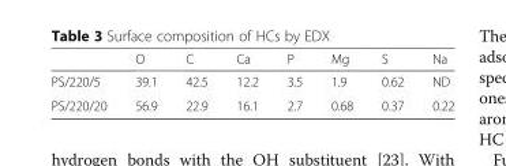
<table><thead><tr><td></td><td>O</td><td>C</td><td>Ca</td><td>P</td><td>Mg</td><td>S</td><td>Na</td></tr></thead><tbody><tr><td>PS/220/5</td><td>39.1</td><td>42.5</td><td>12.2</td><td>3.5</td><td>1.9</td><td>0.62</td><td>ND</td></tr><tr><td>PS/220/20</td><td>56.9</td><td>22.9</td><td>16.1</td><td>2.7</td><td>0.68</td><td>0.37</td><td>0.22</td></tr></tbody></table>